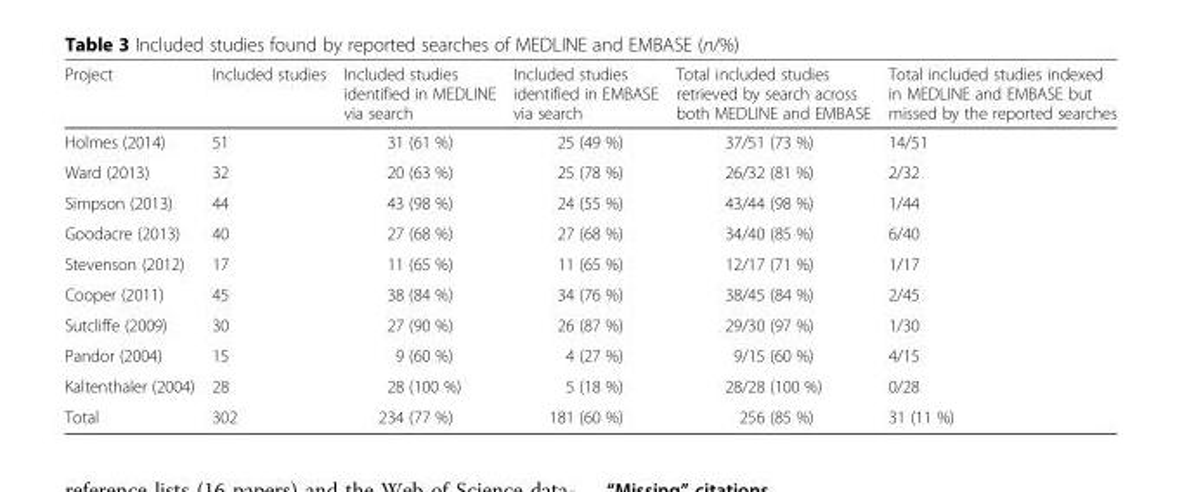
<table><thead><tr><td>Project</td><td>Included studies</td><td>Included studies identified in MEDLINE via search</td><td>Included studies identified in EMBASE via search</td><td>Total included studies retrieved by search across both MEDLINE and EMBASE</td><td>Total included studies indexed in MEDLINE and EMBASE but missed by the reported searches</td></tr></thead><tbody><tr><td>Holmes (2014)</td><td>51</td><td>31 (61 %)</td><td>25 (49 %)</td><td>37/51 (73 %)</td><td>14/51</td></tr><tr><td>Ward (2013)</td><td>32</td><td>20 (63 %)</td><td>25 (78 %)</td><td>26/32 (81 %)</td><td>2/32</td></tr><tr><td>Simpson (2013)</td><td>44</td><td>43 (98 %)</td><td>24 (55 %)</td><td>43/44 (98 %)</td><td>1/44</td></tr><tr><td>Goodacre (2013)</td><td>40</td><td>27 (68 %)</td><td>27 (68 %)</td><td>34/40 (85 %)</td><td>6/40</td></tr><tr><td>Stevenson (2012)</td><td>17</td><td>11 (65 %)</td><td>11 (65 %)</td><td>12/17 (71 %)</td><td>1/17</td></tr><tr><td>Cooper (2011)</td><td>45</td><td>38 (84 %)</td><td>34 (76 %)</td><td>38/45 (84 %)</td><td>2/45</td></tr><tr><td>Sutcliffe (2009)</td><td>30</td><td>27 (90 %)</td><td>26 (87 %)</td><td>29/30 (97 %)</td><td>1/30</td></tr><tr><td>Pandor (2004)</td><td>15</td><td>9 (60 %)</td><td>4 (27 %)</td><td>9/15 (60 %)</td><td>4/15</td></tr><tr><td>Kaltenthaler (2004)</td><td>28</td><td>28 (100 %)</td><td>5 (18 %)</td><td>28/28 (100 %)</td><td>0/28</td></tr><tr><td>Total</td><td>302</td><td>234 (77 %)</td><td>181 (60 %)</td><td>256 (85 %)</td><td>31 (11 %)</td></tr></tbody></table>